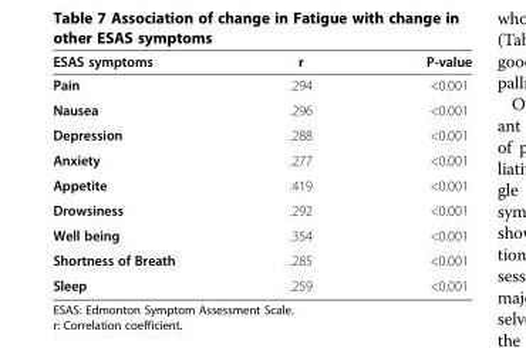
<table><thead><tr><td>ESAS symptoms</td><td>r</td><td>P-value</td></tr></thead><tbody><tr><td>Pain</td><td>.294</td><td>&lt;0.001</td></tr><tr><td>Nausea</td><td>.296</td><td>&lt;0.001</td></tr><tr><td>Depression</td><td>.288</td><td>&lt;0.001</td></tr><tr><td>Anxiety</td><td>.277</td><td>&lt;0.001</td></tr><tr><td>Appetite</td><td>.419</td><td>&lt;0.001</td></tr><tr><td>Drowsiness</td><td>.292</td><td>&lt;0.001</td></tr><tr><td>Well being</td><td>.354</td><td>&lt;0.001</td></tr><tr><td>Shortness of Breath</td><td>.285</td><td>&lt;0.001</td></tr><tr><td>Sleep</td><td>.259</td><td>&lt;0.001</td></tr></tbody></table>